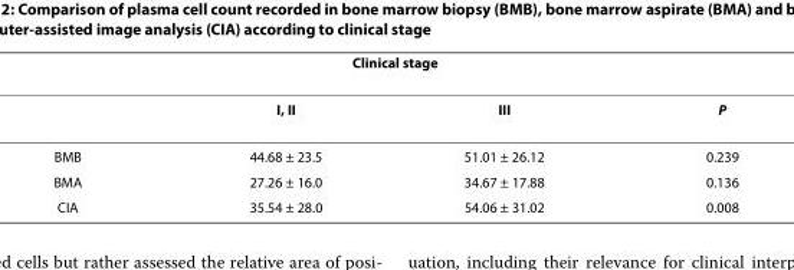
<table><thead><tr><td colspan="4">Clinical stage</td></tr><tr><td></td><td>I, II</td><td>III</td><td>P</td></tr></thead><tbody><tr><td>BMB</td><td>44.68 ± 23.5</td><td>51.01 ± 26.12</td><td>0.239</td></tr><tr><td>BMA</td><td>27.26 ± 16.0</td><td>34.67 ± 17.88</td><td>0.136</td></tr><tr><td>CIA</td><td>35.54 ± 28.0</td><td>54.06 ± 31.02</td><td>0.008</td></tr></tbody></table>